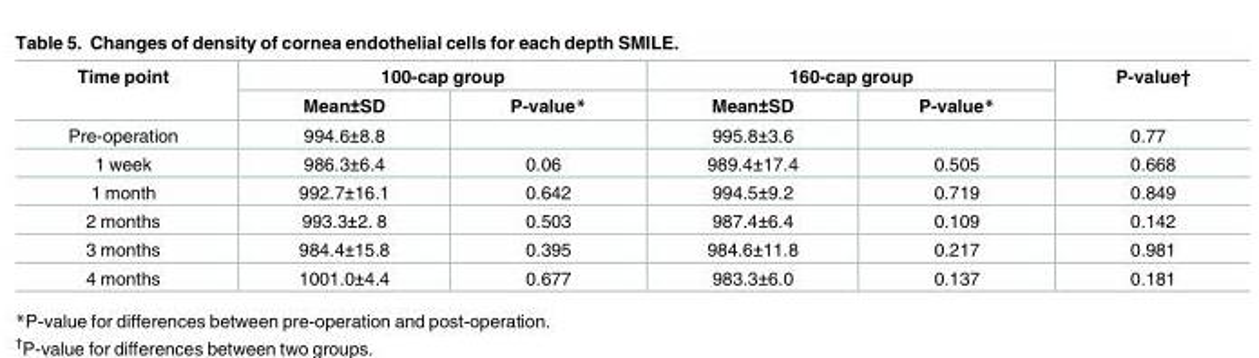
<table><thead><tr><td rowspan="2">Time point</td><td colspan="2">100-cap group</td><td colspan="2">160-cap group</td><td rowspan="2">P-value†</td></tr><tr><td>Mean±SD</td><td>P-value*</td><td>Mean±SD</td><td>P-value*</td></tr></thead><tbody><tr><td>Pre-operation</td><td>994.6±8.8</td><td></td><td>995.8±3.6</td><td></td><td>0.77</td></tr><tr><td>1 week</td><td>986.3±6.4</td><td>0.06</td><td>989.4±17.4</td><td>0.505</td><td>0.668</td></tr><tr><td>1 month</td><td>992.7±16.1</td><td>0.642</td><td>994.5±9.2</td><td>0.719</td><td>0.849</td></tr><tr><td>2 months</td><td>993.3±2. 8</td><td>0.503</td><td>987.4±6.4</td><td>0.109</td><td>0.142</td></tr><tr><td>3 months</td><td>984.4±15.8</td><td>0.395</td><td>984.6±11.8</td><td>0.217</td><td>0.981</td></tr><tr><td>4 months</td><td>1001.0±4.4</td><td>0.677</td><td>983.3±6.0</td><td>0.137</td><td>0.181</td></tr></tbody></table>